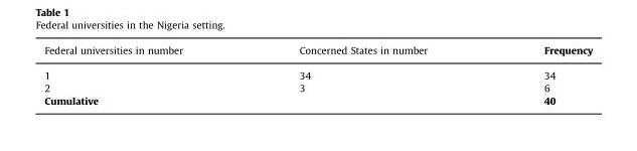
<table><thead><tr><td>Federal universities in number</td><td>Concerned States in number</td><td>Frequency</td></tr></thead><tbody><tr><td>1</td><td>34</td><td>34</td></tr><tr><td>2</td><td>3</td><td>6</td></tr><tr><td colspan="2">Cumulative</td><td>40</td></tr></tbody></table>